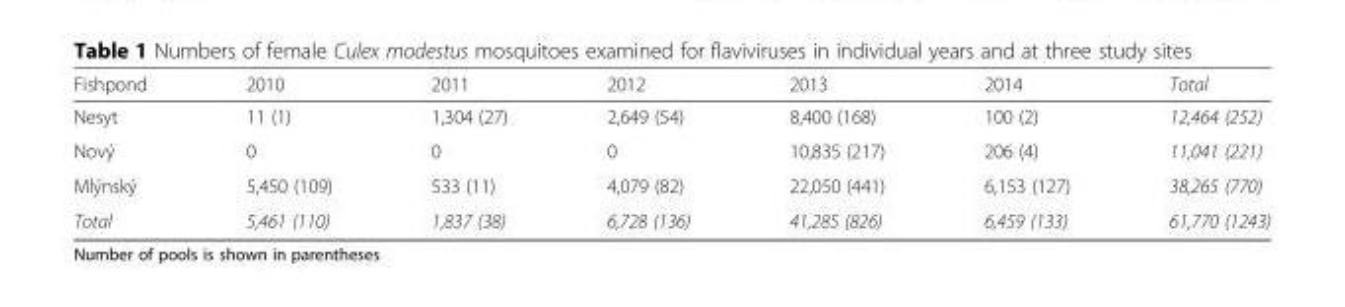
<table><thead><tr><td>Fishpond</td><td>2010</td><td>2011</td><td>2012</td><td>2013</td><td>2014</td><td>Total</td></tr></thead><tbody><tr><td>Nesyt</td><td>11 (1)</td><td>1,304 (27)</td><td>2,649 (54)</td><td>8,400 (168)</td><td>100 (2)</td><td>12,464 (252)</td></tr><tr><td>Nový</td><td>0</td><td>0</td><td>0</td><td>10,835 (217)</td><td>206 (4)</td><td>11,041 (221)</td></tr><tr><td>Mlýnský</td><td>5,450 (109)</td><td>533 (11)</td><td>4,079 (82)</td><td>22,050 (441)</td><td>6,153 (127)</td><td>38,265 (770)</td></tr><tr><td>Total</td><td>5,461 (110)</td><td>1,837 (38)</td><td>6,728 (136)</td><td>41,285 (826)</td><td>6,459 (133)</td><td>61,770 (1243)</td></tr></tbody></table>